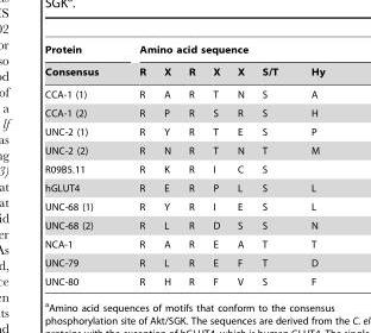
<table><thead><tr><td rowspan="2">Protein Consensus</td><td colspan="7">Amino acid sequence</td></tr><tr><td>R</td><td>X</td><td>R</td><td>X</td><td>X</td><td>S/T</td><td>Hy</td></tr></thead><tbody><tr><td>CCA-1 (1)</td><td>R</td><td>A</td><td>R</td><td>T</td><td>N</td><td>S</td><td>A</td></tr><tr><td>CCA-1 (2)</td><td>R</td><td>P</td><td>R</td><td>S</td><td>R</td><td>S</td><td>H</td></tr><tr><td>UNC-2 (1)</td><td>R</td><td>Y</td><td>R</td><td>T</td><td>E</td><td>S</td><td>P</td></tr><tr><td>UNC-2 (2)</td><td>R</td><td>N</td><td>R</td><td>T</td><td>N</td><td>T</td><td>M</td></tr><tr><td>R09B5.11</td><td>R</td><td>K</td><td>R</td><td>I</td><td>C</td><td>S</td><td></td></tr><tr><td>hGLUT4</td><td>R</td><td>E</td><td>R</td><td>P</td><td>L</td><td>S</td><td>L</td></tr><tr><td>UNC-68 (1)</td><td>R</td><td>Y</td><td>R</td><td>I</td><td>E</td><td>S</td><td>L</td></tr><tr><td>UNC-68 (2)</td><td>R</td><td>L</td><td>R</td><td>D</td><td>S</td><td>S</td><td>N</td></tr><tr><td>NCA-1</td><td>R</td><td>A</td><td>R</td><td>E</td><td>A</td><td>T</td><td>T</td></tr><tr><td>UNC-79</td><td>R</td><td>L</td><td>R</td><td>E</td><td>F</td><td>T</td><td>D</td></tr><tr><td>UNC-80</td><td>R</td><td>H</td><td>R</td><td>F</td><td>V</td><td>S</td><td>F</td></tr></tbody></table>